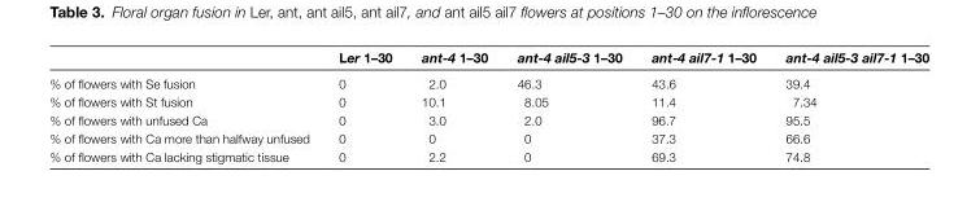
<table><thead><tr><td></td><td>Ler 1–30</td><td>ant-4 1–30</td><td>ant-4 ail5-3 1–30</td><td>ant-4 ail7-1 1–30</td><td>ant-4 ail5-3 ail7-1 1–30</td></tr></thead><tbody><tr><td>% of flowers with Se fusion</td><td>0</td><td>2.0</td><td>46.3</td><td>43.6</td><td>39.4</td></tr><tr><td>% of flowers with St fusion</td><td>0</td><td>10.1</td><td>8.05</td><td>11.4</td><td>7.34</td></tr><tr><td>% of flowers with unfused Ca</td><td>0</td><td>3.0</td><td>2.0</td><td>96.7</td><td>95.5</td></tr><tr><td>% of flowers with Ca more than halfway unfused</td><td>0</td><td>0</td><td>0</td><td>37.3</td><td>66.6</td></tr><tr><td>% of flowers with Ca lacking stigmatic tissue</td><td>0</td><td>2.2</td><td>0</td><td>69.3</td><td>74.8</td></tr></tbody></table>